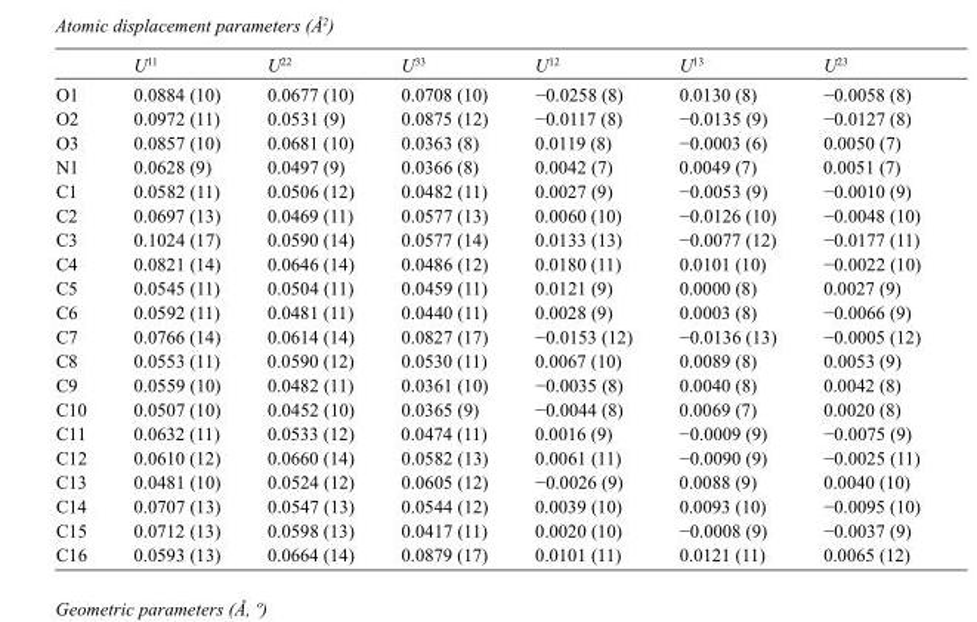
<table><thead><tr><td></td><td>U<sup>11</sup></td><td>U<sup>22</sup></td><td>U<sup>33</sup></td><td>U<sup>12</sup></td><td>U<sup>13</sup></td><td>U<sup>23</sup></td></tr></thead><tbody><tr><td>O1</td><td>0.0884 (10)</td><td>0.0677 (10)</td><td>0.0708 (10)</td><td>−0.0258 (8)</td><td>0.0130 (8)</td><td>−0.0058 (8)</td></tr><tr><td>O2</td><td>0.0972 (11)</td><td>0.0531 (9)</td><td>0.0875 (12)</td><td>−0.0117 (8)</td><td>−0.0135 (9)</td><td>−0.0127 (8)</td></tr><tr><td>O3</td><td>0.0857 (10)</td><td>0.0681 (10)</td><td>0.0363 (8)</td><td>0.0119 (8)</td><td>−0.0003 (6)</td><td>0.0050 (7)</td></tr><tr><td>N1</td><td>0.0628 (9)</td><td>0.0497 (9)</td><td>0.0366 (8)</td><td>0.0042 (7)</td><td>0.0049 (7)</td><td>0.0051 (7)</td></tr><tr><td>C1</td><td>0.0582 (11)</td><td>0.0506 (12)</td><td>0.0482 (11)</td><td>0.0027 (9)</td><td>−0.0053 (9)</td><td>−0.0010 (9)</td></tr><tr><td>C2</td><td>0.0697 (13)</td><td>0.0469 (11)</td><td>0.0577 (13)</td><td>0.0060 (10)</td><td>−0.0126 (10)</td><td>−0.0048 (10)</td></tr><tr><td>C3</td><td>0.1024 (17)</td><td>0.0590 (14)</td><td>0.0577 (14)</td><td>0.0133 (13)</td><td>−0.0077 (12)</td><td>−0.0177 (11)</td></tr><tr><td>C4</td><td>0.0821 (14)</td><td>0.0646 (14)</td><td>0.0486 (12)</td><td>0.0180 (11)</td><td>0.0101 (10)</td><td>−0.0022 (10)</td></tr><tr><td>C5</td><td>0.0545 (11)</td><td>0.0504 (11)</td><td>0.0459 (11)</td><td>0.0121 (9)</td><td>0.0000 (8)</td><td>0.0027 (9)</td></tr><tr><td>C6</td><td>0.0592 (11)</td><td>0.0481 (11)</td><td>0.0440 (11)</td><td>0.0028 (9)</td><td>0.0003 (8)</td><td>−0.0066 (9)</td></tr><tr><td>C7</td><td>0.0766 (14)</td><td>0.0614 (14)</td><td>0.0827 (17)</td><td>−0.0153 (12)</td><td>−0.0136 (13)</td><td>−0.0005 (12)</td></tr><tr><td>C8</td><td>0.0553 (11)</td><td>0.0590 (12)</td><td>0.0530 (11)</td><td>0.0067 (10)</td><td>0.0089 (8)</td><td>0.0053 (9)</td></tr><tr><td>C9</td><td>0.0559 (10)</td><td>0.0482 (11)</td><td>0.0361 (10)</td><td>−0.0035 (8)</td><td>0.0040 (8)</td><td>0.0042 (8)</td></tr><tr><td>C10</td><td>0.0507 (10)</td><td>0.0452 (10)</td><td>0.0365 (9)</td><td>−0.0044 (8)</td><td>0.0069 (7)</td><td>0.0020 (8)</td></tr><tr><td>C11</td><td>0.0632 (11)</td><td>0.0533 (12)</td><td>0.0474 (11)</td><td>0.0016 (9)</td><td>−0.0009 (9)</td><td>−0.0075 (9)</td></tr><tr><td>C12</td><td>0.0610 (12)</td><td>0.0660 (14)</td><td>0.0582 (13)</td><td>0.0061 (11)</td><td>−0.0090 (9)</td><td>−0.0025 (11)</td></tr><tr><td>C13</td><td>0.0481 (10)</td><td>0.0524 (12)</td><td>0.0605 (12)</td><td>−0.0026 (9)</td><td>0.0088 (9)</td><td>0.0040 (10)</td></tr><tr><td>C14</td><td>0.0707 (13)</td><td>0.0547 (13)</td><td>0.0544 (12)</td><td>0.0039 (10)</td><td>0.0093 (10)</td><td>−0.0095 (10)</td></tr><tr><td>C15</td><td>0.0712 (13)</td><td>0.0598 (13)</td><td>0.0417 (11)</td><td>0.0020 (10)</td><td>−0.0008 (9)</td><td>−0.0037 (9)</td></tr><tr><td>C16</td><td>0.0593 (13)</td><td>0.0664 (14)</td><td>0.0879 (17)</td><td>0.0101 (11)</td><td>0.0121 (11)</td><td>0.0065 (12)</td></tr></tbody></table>